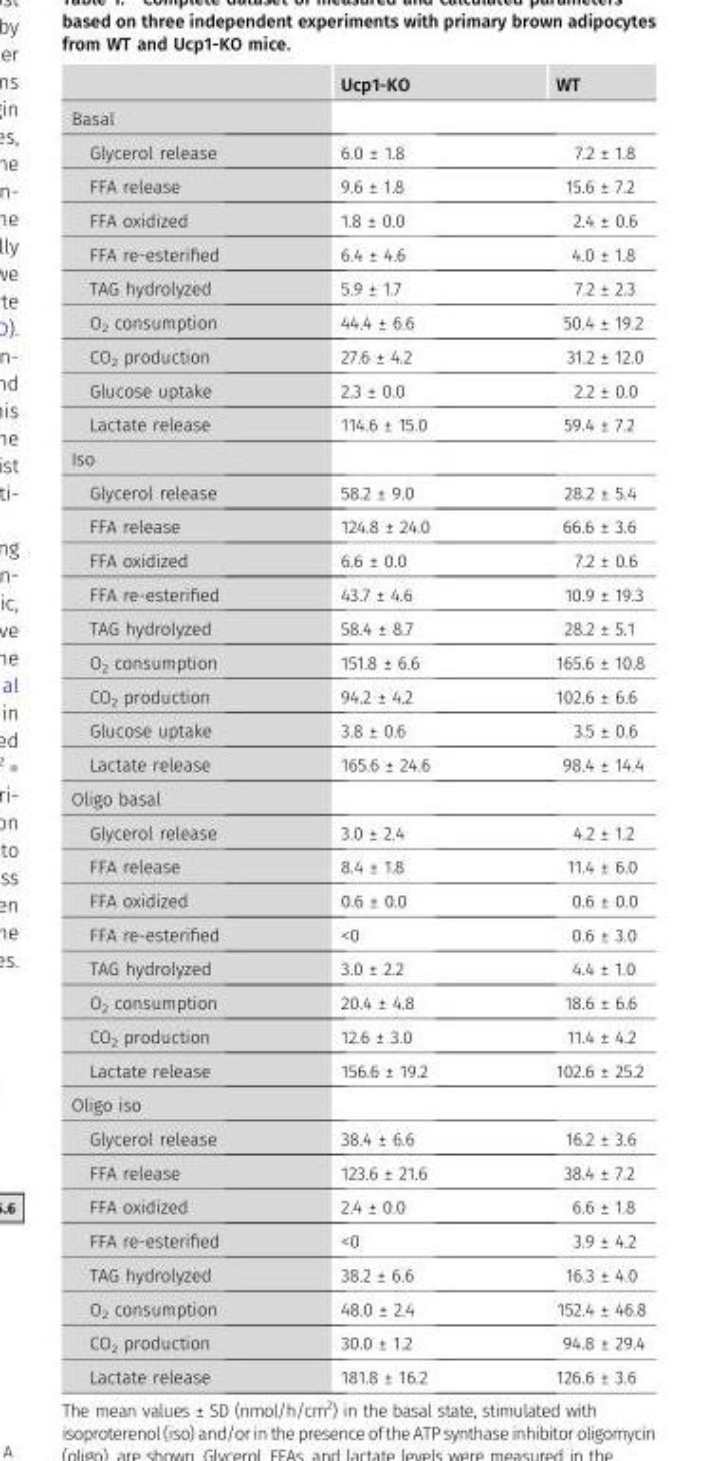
<table><thead><tr><td></td><td>Ucp1-KO</td><td>WT</td></tr></thead><tbody><tr><td colspan="3">Basal</td></tr><tr><td>Glycerol release</td><td>6.0 ± 1.8</td><td>7.2 ± 1.8</td></tr><tr><td>FFA release</td><td>9.6 ± 1.8</td><td>15.6 ± 7.2</td></tr><tr><td>FFA oxidized</td><td>1.8 ± 0.0</td><td>2.4 ± 0.6</td></tr><tr><td>FFA re-esterified</td><td>6.4 ± 4.6</td><td>4.0 ± 1.8</td></tr><tr><td>TAG hydrolyzed</td><td>5.9 ± 1.7</td><td>7.2 ± 2.3</td></tr><tr><td>O<sub>2</sub> consumption</td><td>44.4 ± 6.6</td><td>50.4 ± 19.2</td></tr><tr><td>CO<sub>2</sub> production</td><td>27.6 ± 4.2</td><td>31.2 ± 12.0</td></tr><tr><td>Glucose uptake</td><td>2.3 ± 0.0</td><td>2.2 ± 0.0</td></tr><tr><td>Lactate release</td><td>114.6 ± 15.0</td><td>59.4 ± 7.2</td></tr><tr><td colspan="3">Iso</td></tr><tr><td>Glycerol release</td><td>58.2 ± 9.0</td><td>28.2 ± 5.4</td></tr><tr><td>FFA release</td><td>124.8 ± 24.0</td><td>66.6 ± 3.6</td></tr><tr><td>FFA oxidized</td><td>6.6 ± 0.0</td><td>7.2 ± 0.6</td></tr><tr><td>FFA re-esterified</td><td>43.7 ± 4.6</td><td>10.9 ± 19.3</td></tr><tr><td>TAG hydrolyzed</td><td>58.4 ± 8.7</td><td>28.2 ± 5.1</td></tr><tr><td>O<sub>2</sub> consumption</td><td>151.8 ± 6.6</td><td>165.6 ± 10.8</td></tr><tr><td>CO<sub>2</sub> production</td><td>94.2 ± 4.2</td><td>102.6 ± 6.6</td></tr><tr><td>Glucose uptake</td><td>3.8 ± 0.6</td><td>3.5 ± 0.6</td></tr><tr><td>Lactate release</td><td>165.6 ± 24.6</td><td>98.4 ± 14.4</td></tr><tr><td colspan="3">Oligo basal</td></tr><tr><td>Glycerol release</td><td>3.0 ± 2.4</td><td>4.2 ± 1.2</td></tr><tr><td>FFA release</td><td>8.4 ± 1.8</td><td>11.4 ± 6.0</td></tr><tr><td>FFA oxidized</td><td>0.6 ± 0.0</td><td>0.6 ± 0.0</td></tr><tr><td>FFA re-esterified</td><td>&lt;0</td><td>0.6 ± 3.0</td></tr><tr><td>TAG hydrolyzed</td><td>3.0 ± 2.2</td><td>4.4 ± 1.0</td></tr><tr><td>O<sub>2</sub> consumption</td><td>20.4 ± 4.8</td><td>18.6 ± 6.6</td></tr><tr><td>CO<sub>2</sub> production</td><td>12.6 ± 3.0</td><td>11.4 ± 4.2</td></tr><tr><td>Lactate release</td><td>156.6 ± 19.2</td><td>102.6 ± 25.2</td></tr><tr><td colspan="3">Oligo iso</td></tr><tr><td>Glycerol release</td><td>38.4 ± 6.6</td><td>16.2 ± 3.6</td></tr><tr><td>FFA release</td><td>123.6 ± 21.6</td><td>38.4 ± 7.2</td></tr><tr><td>FFA oxidized</td><td>2.4 ± 0.0</td><td>6.6 ± 1.8</td></tr><tr><td>FFA re-esterified</td><td>&lt;0</td><td>3.9 ± 4.2</td></tr><tr><td>TAG hydrolyzed</td><td>38.2 ± 6.6</td><td>16.3 ± 4.0</td></tr><tr><td>O<sub>2</sub> consumption</td><td>48.0 ± 2.4</td><td>152.4 ± 46.8</td></tr><tr><td>CO<sub>2</sub> production</td><td>30.0 ± 1.2</td><td>94.8 ± 29.4</td></tr><tr><td>Lactate release</td><td>181.8 ± 16.2</td><td>126.6 ± 3.6</td></tr></tbody></table>